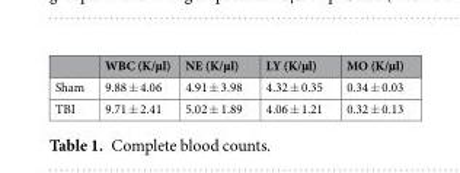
<table><thead><tr><td></td><td>WBC (K/µl)</td><td>NE (K/µl)</td><td>LY (K/µl)</td><td>MO (K/µl)</td></tr></thead><tbody><tr><td>Sham</td><td>9.88 ± 4.06</td><td>4.91 ± 3.98</td><td>4.32 ± 0.35</td><td>0.34 ± 0.03</td></tr><tr><td>TBI</td><td>9.71 ± 2.41</td><td>5.02 ± 1.89</td><td>4.06 ± 1.21</td><td>0.32 ± 0.13</td></tr></tbody></table>